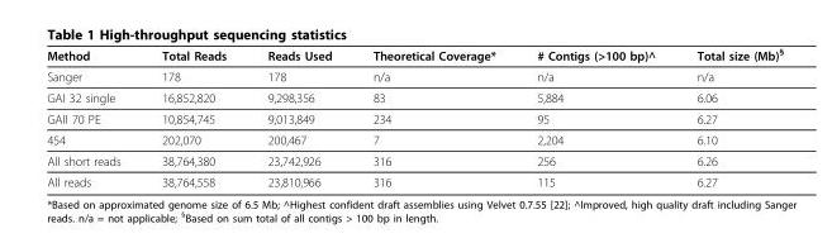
<table><thead><tr><td>Method</td><td>Total Reads</td><td>Reads Used</td><td>Theoretical Coverage*</td><td># Contigs (&gt;100 bp)^</td><td>Total size (Mb)<sup>§</sup></td></tr></thead><tbody><tr><td>Sanger</td><td>178</td><td>178</td><td>n/a</td><td>n/a</td><td>n/a</td></tr><tr><td>GAI 32 single</td><td>16,852,820</td><td>9,298,356</td><td>83</td><td>5,884</td><td>6.06</td></tr><tr><td>GAII 70 PE</td><td>10,854,745</td><td>9,013,849</td><td>234</td><td>95</td><td>6.27</td></tr><tr><td>454</td><td>202,070</td><td>200,467</td><td>7</td><td>2,204</td><td>6.10</td></tr><tr><td>All short reads</td><td>38,764,380</td><td>23,742,926</td><td>316</td><td>256</td><td>6.26</td></tr><tr><td>All reads</td><td>38,764,558</td><td>23,810,966</td><td>316</td><td>115</td><td>6.27</td></tr></tbody></table>